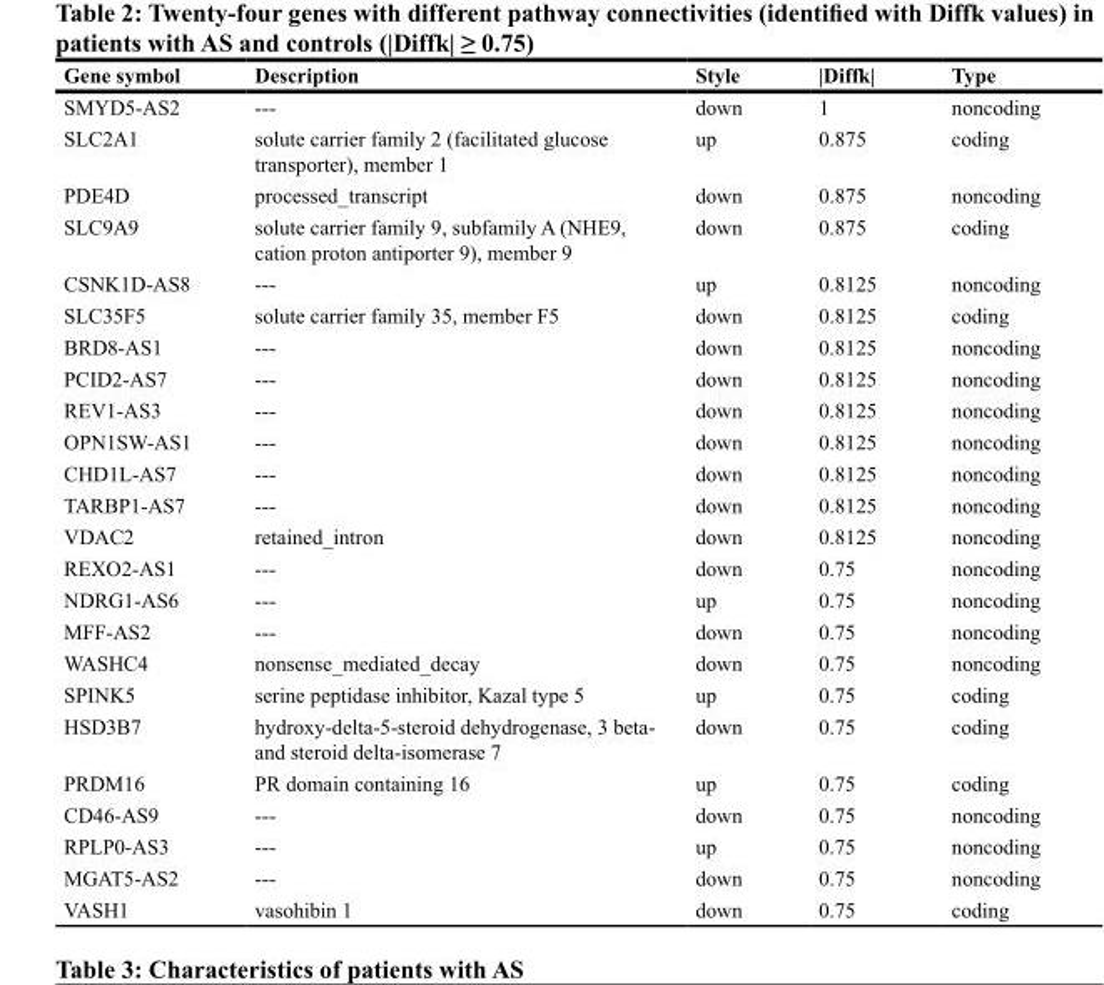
<table><thead><tr><td>Gene symbol</td><td>Description</td><td>Style</td><td>|Diffk|</td><td>Type</td></tr></thead><tbody><tr><td>SMYD5-AS2</td><td>---</td><td>down</td><td>1</td><td>noncoding</td></tr><tr><td>SLC2A1</td><td>solute carrier family 2 (facilitated glucose transporter), member 1</td><td>up</td><td>0.875</td><td>coding</td></tr><tr><td>PDE4D</td><td>processed_transcript</td><td>down</td><td>0.875</td><td>noncoding</td></tr><tr><td>SLC9A9</td><td>solute carrier family 9, subfamily A (NHE9, cation proton antiporter 9), member 9</td><td>down</td><td>0.875</td><td>coding</td></tr><tr><td>CSNK1D-AS8</td><td>---</td><td>up</td><td>0.8125</td><td>noncoding</td></tr><tr><td>SLC35F5</td><td>solute carrier family 35, member F5</td><td>down</td><td>0.8125</td><td>coding</td></tr><tr><td>BRD8-AS1</td><td>---</td><td>down</td><td>0.8125</td><td>noncoding</td></tr><tr><td>PCID2-AS7</td><td>---</td><td>down</td><td>0.8125</td><td>noncoding</td></tr><tr><td>REV1-AS3</td><td>---</td><td>down</td><td>0.8125</td><td>noncoding</td></tr><tr><td>OPN1SW-AS1</td><td>---</td><td>down</td><td>0.8125</td><td>noncoding</td></tr><tr><td>CHD1L-AS7</td><td>---</td><td>down</td><td>0.8125</td><td>noncoding</td></tr><tr><td>TARBP1-AS7</td><td>---</td><td>down</td><td>0.8125</td><td>noncoding</td></tr><tr><td>VDAC2</td><td>retained_intron</td><td>down</td><td>0.8125</td><td>noncoding</td></tr><tr><td>REXO2-AS1</td><td>---</td><td>down</td><td>0.75</td><td>noncoding</td></tr><tr><td>NDRG1-AS6</td><td>---</td><td>up</td><td>0.75</td><td>noncoding</td></tr><tr><td>MFF-AS2</td><td>---</td><td>down</td><td>0.75</td><td>noncoding</td></tr><tr><td>WASHC4</td><td>nonsense_mediated_decay</td><td>down</td><td>0.75</td><td>noncoding</td></tr><tr><td>SPINK5</td><td>serine peptidase inhibitor, Kazal type 5</td><td>up</td><td>0.75</td><td>coding</td></tr><tr><td>HSD3B7</td><td>hydroxy-delta-5-steroid dehydrogenase, 3 beta- and steroid delta-isomerase 7</td><td>down</td><td>0.75</td><td>coding</td></tr><tr><td>PRDM16</td><td>PR domain containing 16</td><td>up</td><td>0.75</td><td>coding</td></tr><tr><td>CD46-AS9</td><td>---</td><td>down</td><td>0.75</td><td>noncoding</td></tr><tr><td>RPLP0-AS3</td><td>---</td><td>up</td><td>0.75</td><td>noncoding</td></tr><tr><td>MGAT5-AS2</td><td>---</td><td>down</td><td>0.75</td><td>noncoding</td></tr><tr><td>VASH1</td><td>vasohibin 1</td><td>down</td><td>0.75</td><td>coding</td></tr></tbody></table>